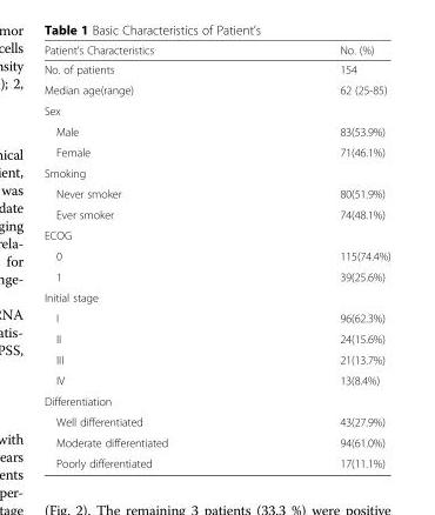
<table><thead><tr><td>Patient’s Characteristics</td><td>No. (%)</td></tr></thead><tbody><tr><td>No. of patients</td><td>154</td></tr><tr><td>Median age(range)</td><td>62 (25-85)</td></tr><tr><td colspan="2">Sex</td></tr><tr><td>Male</td><td>83(53.9%)</td></tr><tr><td>Female</td><td>71(46.1%)</td></tr><tr><td colspan="2">Smoking</td></tr><tr><td>Never smoker</td><td>80(51.9%)</td></tr><tr><td>Ever smoker</td><td>74(48.1%)</td></tr><tr><td colspan="2">ECOG</td></tr><tr><td>0</td><td>115(74.4%)</td></tr><tr><td>1</td><td>39(25.6%)</td></tr><tr><td colspan="2">Initial stage</td></tr><tr><td>I</td><td>96(62.3%)</td></tr><tr><td>II</td><td>24(15.6%)</td></tr><tr><td>III</td><td>21(13.7%)</td></tr><tr><td>IV</td><td>13(8.4%)</td></tr><tr><td colspan="2">Differentiation</td></tr><tr><td>Well differentiated</td><td>43(27.9%)</td></tr><tr><td>Moderate differentiated</td><td>94(61.0%)</td></tr><tr><td>Poorly differentiated</td><td>17(11.1%)</td></tr></tbody></table>